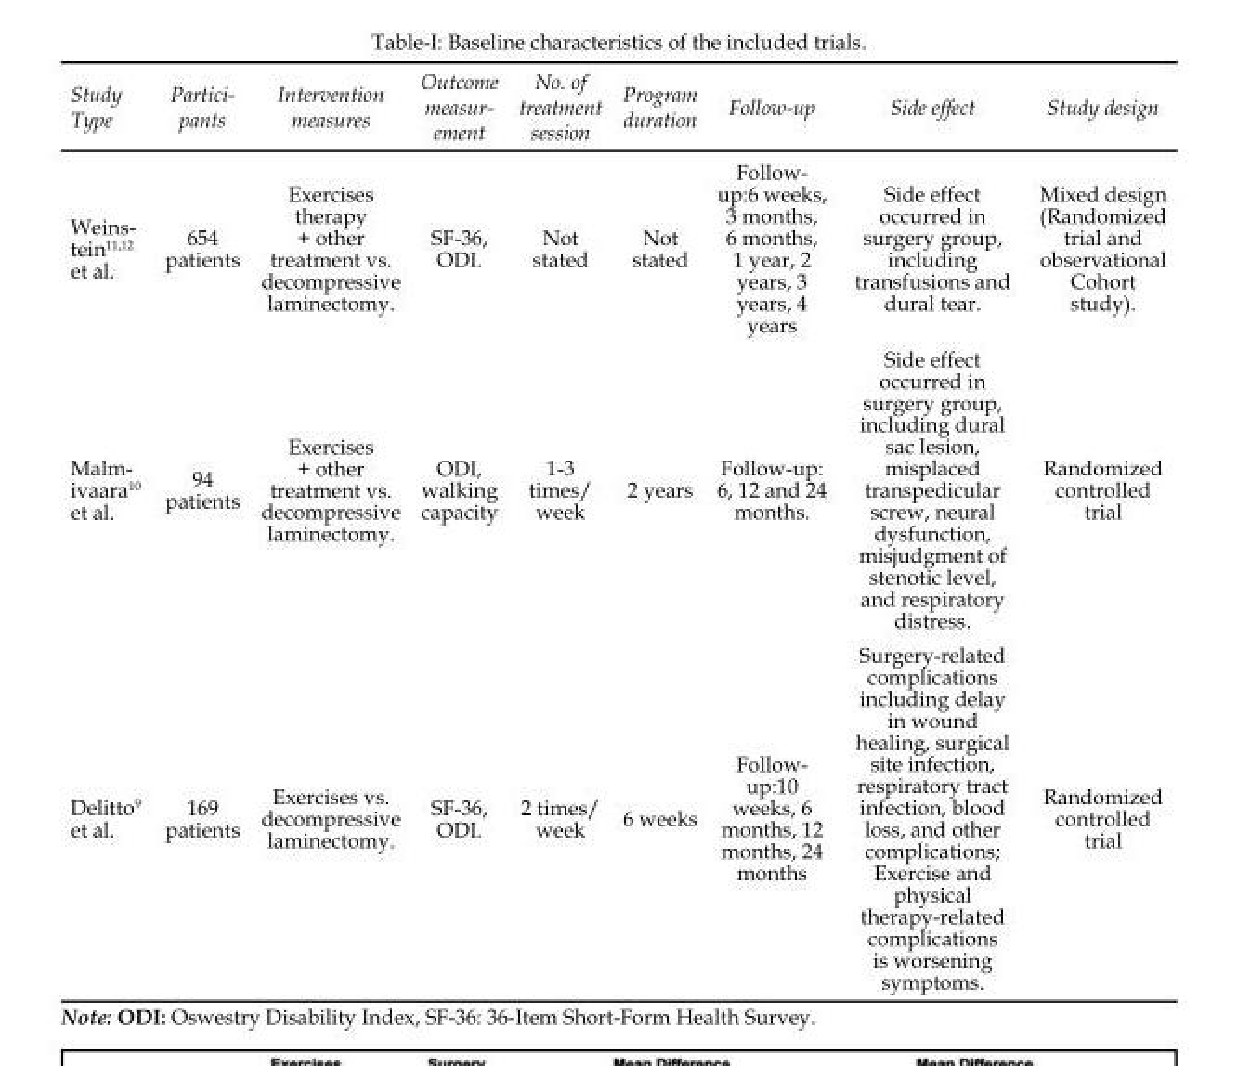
<table><thead><tr><td>Study Type</td><td>Partici- pants</td><td>Intervention measures</td><td>Outcome measur- ement</td><td>No. of treatment session</td><td>Program duration</td><td>Follow-up</td><td>Side effect</td><td>Study design</td></tr></thead><tbody><tr><td>Weins- tein11,12 et al.</td><td>654 patients</td><td>Exercises therapy + other treatment vs. decompressive laminectomy.</td><td>SF-36, ODI.</td><td>Not stated</td><td>Not stated</td><td>Follow- up:6 weeks, 3 months, 6 months, 1 year, 2 years, 3 years, 4 years</td><td>Side effect occurred in surgery group, including transfusions and dural tear.</td><td>Mixed design (Randomized trial and observational Cohort study).</td></tr><tr><td>Malm- ivaara10 et al.</td><td>94 patients</td><td>Exercises + other treatment vs. decompressive laminectomy.</td><td>ODI, walking capacity</td><td>1-3 times/ week</td><td>2 years</td><td>Follow-up: 6, 12 and 24 months.</td><td>Side effect occurred in surgery group, including dural sac lesion, misplaced transpedicular screw, neural dysfunction, misjudgment of stenotic level, and respiratory distress.</td><td>Randomized controlled trial</td></tr><tr><td>Delitto<sup>9</sup> et al.</td><td>169 patients</td><td>Exercises vs. decompressive laminectomy.</td><td>SF-36, ODI.</td><td>2 times/ week</td><td>6 weeks</td><td>Follow- up:10 weeks, 6 months, 12 months, 24 months</td><td>Surgery-related complications including delay in wound healing, surgical site infection, respiratory tract infection, blood loss, and other complications; Exercise and physical therapy-related complications is worsening symptoms.</td><td>Randomized controlled trial</td></tr></tbody></table>